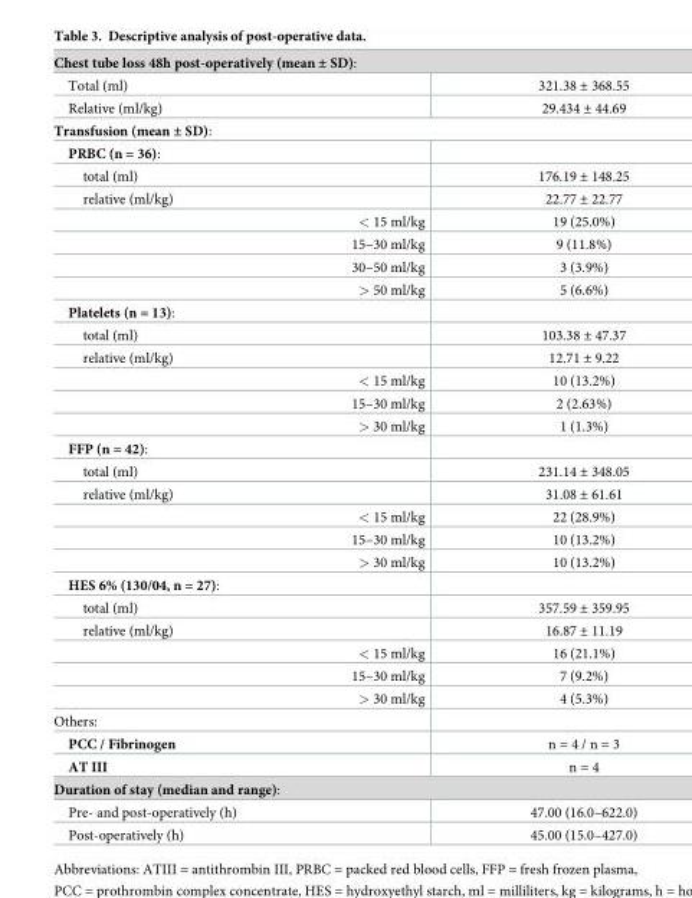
<table><tbody><tr><td colspan="2">Chest tube loss 48h post-operatively (mean ± SD):</td></tr><tr><td>Total (ml)</td><td>321.38 ± 368.55</td></tr><tr><td>Relative (ml/kg)</td><td>29.434 ± 44.69</td></tr><tr><td colspan="2">Transfusion (mean ± SD):</td></tr><tr><td colspan="2">PRBC (n = 36):</td></tr><tr><td>total (ml)</td><td>176.19 ± 148.25</td></tr><tr><td>relative (ml/kg)</td><td>22.77 ± 22.77</td></tr><tr><td>&lt; 15 ml/kg</td><td>19 (25.0%)</td></tr><tr><td>15–30 ml/kg</td><td>9 (11.8%)</td></tr><tr><td>30–50 ml/kg</td><td>3 (3.9%)</td></tr><tr><td>&gt; 50 ml/kg</td><td>5 (6.6%)</td></tr><tr><td colspan="2">Platelets (n = 13):</td></tr><tr><td>total (ml)</td><td>103.38 ± 47.37</td></tr><tr><td>relative (ml/kg)</td><td>12.71 ± 9.22</td></tr><tr><td>&lt; 15 ml/kg</td><td>10 (13.2%)</td></tr><tr><td>15–30 ml/kg</td><td>2 (2.63%)</td></tr><tr><td>&gt; 30 ml/kg</td><td>1 (1.3%)</td></tr><tr><td colspan="2">FFP (n = 42):</td></tr><tr><td>total (ml)</td><td>231.14 ± 348.05</td></tr><tr><td>relative (ml/kg)</td><td>31.08 ± 61.61</td></tr><tr><td>&lt; 15 ml/kg</td><td>22 (28.9%)</td></tr><tr><td>15–30 ml/kg</td><td>10 (13.2%)</td></tr><tr><td>&gt; 30 ml/kg</td><td>10 (13.2%)</td></tr><tr><td colspan="2">HES 6% (130/04, n = 27):</td></tr><tr><td>total (ml)</td><td>357.59 ± 359.95</td></tr><tr><td>relative (ml/kg)</td><td>16.87 ± 11.19</td></tr><tr><td>&lt; 15 ml/kg</td><td>16 (21.1%)</td></tr><tr><td>15–30 ml/kg</td><td>7 (9.2%)</td></tr><tr><td>&gt; 30 ml/kg</td><td>4 (5.3%)</td></tr><tr><td colspan="2">Others:</td></tr><tr><td>PCC / Fibrinogen</td><td>n = 4 / n = 3</td></tr><tr><td>AT III</td><td>n = 4</td></tr><tr><td colspan="2">Duration of stay (median and range):</td></tr><tr><td>Pre- and post-operatively (h)</td><td>47.00 (16.0–622.0)</td></tr><tr><td>Post-operatively (h)</td><td>45.00 (15.0–427.0)</td></tr></tbody></table>